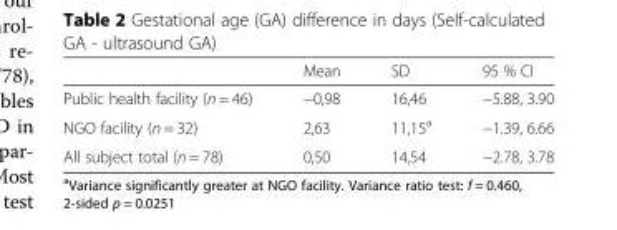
<table><thead><tr><td></td><td>Mean</td><td>SD</td><td>95 % CI</td></tr></thead><tbody><tr><td>Public health facility (n = 46)</td><td>−0,98</td><td>16,46</td><td>−5.88, 3.90</td></tr><tr><td>NGO facility (n = 32)</td><td>2,63</td><td>11,15<sup>a</sup></td><td>−1.39, 6.66</td></tr><tr><td>All subject total (n = 78)</td><td>0,50</td><td>14,54</td><td>−2.78, 3.78</td></tr></tbody></table>